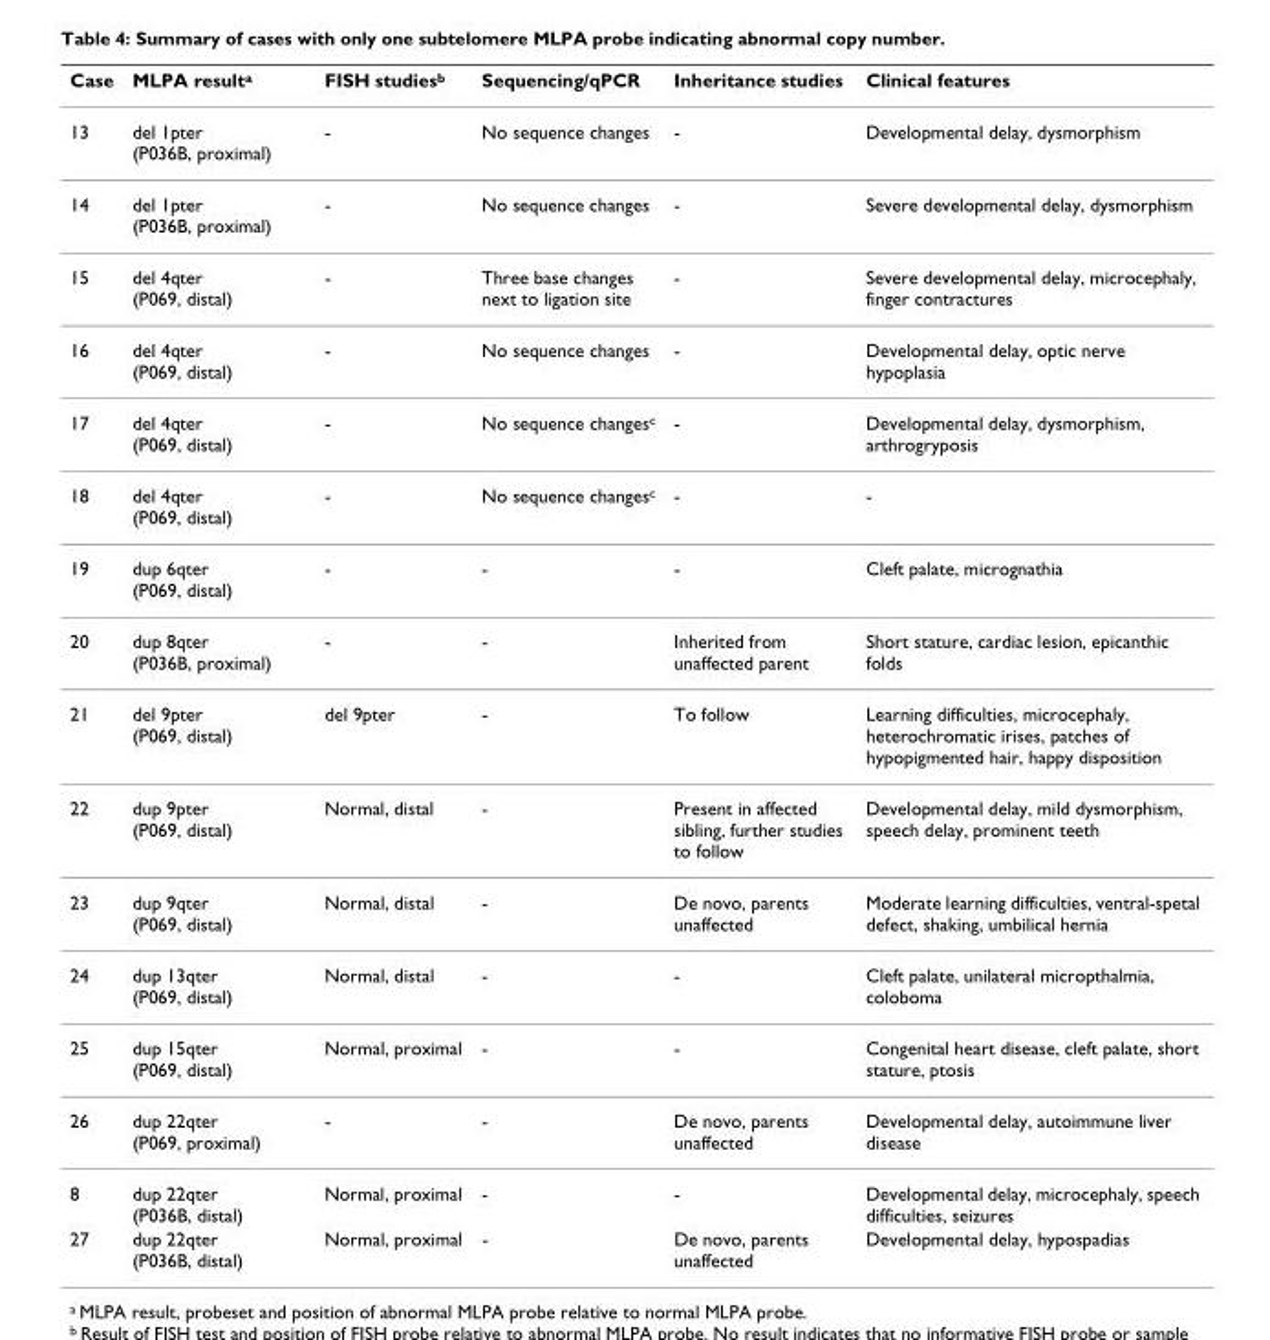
<table><thead><tr><td>Case</td><td>MLPA result<sup>a</sup></td><td>FISH studies<sup>b</sup></td><td>Sequencing/qPCR</td><td>Inheritance studies</td><td>Clinical features</td></tr></thead><tbody><tr><td>13</td><td>del 1pter (P036B, proximal)</td><td>-</td><td>No sequence changes</td><td>-</td><td>Developmental delay, dysmorphism</td></tr><tr><td>14</td><td>del 1pter (P036B, proximal)</td><td>-</td><td>No sequence changes</td><td>-</td><td>Severe developmental delay, dysmorphism</td></tr><tr><td>15</td><td>del 4qter (P069, distal)</td><td>-</td><td>Three base changes next to ligation site</td><td>-</td><td>Severe developmental delay, microcephaly, finger contractures</td></tr><tr><td>16</td><td>del 4qter (P069, distal)</td><td>-</td><td>No sequence changes</td><td>-</td><td>Developmental delay, optic nerve hypoplasia</td></tr><tr><td>17</td><td>del 4qter (P069, distal)</td><td>-</td><td>No sequence changes<sup>c</sup></td><td>-</td><td>Developmental delay, dysmorphism, arthrogryposis</td></tr><tr><td>18</td><td>del 4qter (P069, distal)</td><td>-</td><td>No sequence changes<sup>c</sup></td><td>-</td><td>-</td></tr><tr><td>19</td><td>dup 6qter (P069, distal)</td><td>-</td><td>-</td><td>-</td><td>Cleft palate, micrognathia</td></tr><tr><td>20</td><td>dup 8qter (P036B, proximal)</td><td>-</td><td>-</td><td>Inherited from unaffected parent</td><td>Short stature, cardiac lesion, epicanthic folds</td></tr><tr><td>21</td><td>del 9pter (P069, distal)</td><td>del 9pter</td><td>-</td><td>To follow</td><td>Learning difficulties, microcephaly, heterochromatic irises, patches of hypopigmented hair, happy disposition</td></tr><tr><td>22</td><td>dup 9pter (P069, distal)</td><td>Normal, distal</td><td>-</td><td>Present in affected sibling, further studies to follow</td><td>Developmental delay, mild dysmorphism, speech delay, prominent teeth</td></tr><tr><td>23</td><td>dup 9qter (P069, distal)</td><td>Normal, distal</td><td>-</td><td>De novo, parents unaffected</td><td>Moderate learning difficulties, ventral-spetal defect, shaking, umbilical hernia</td></tr><tr><td>24</td><td>dup 13qter (P069, distal)</td><td>Normal, distal</td><td>-</td><td>-</td><td>Cleft palate, unilateral micropthalmia, coloboma</td></tr><tr><td>25</td><td>dup 15qter (P069, distal)</td><td>Normal, proximal</td><td>-</td><td>-</td><td>Congenital heart disease, cleft palate, short stature, ptosis</td></tr><tr><td>26</td><td>dup 22qter (P069, proximal)</td><td>-</td><td>-</td><td>De novo, parents unaffected</td><td>Developmental delay, autoimmune liver disease</td></tr><tr><td>8</td><td>dup 22qter (P036B, distal)</td><td>Normal, proximal</td><td>-</td><td>-</td><td>Developmental delay, microcephaly, speech difficulties, seizures</td></tr><tr><td>27</td><td>dup 22qter (P036B, distal)</td><td>Normal, proximal</td><td>-</td><td>De novo, parents unaffected</td><td>Developmental delay, hypospadias</td></tr></tbody></table>